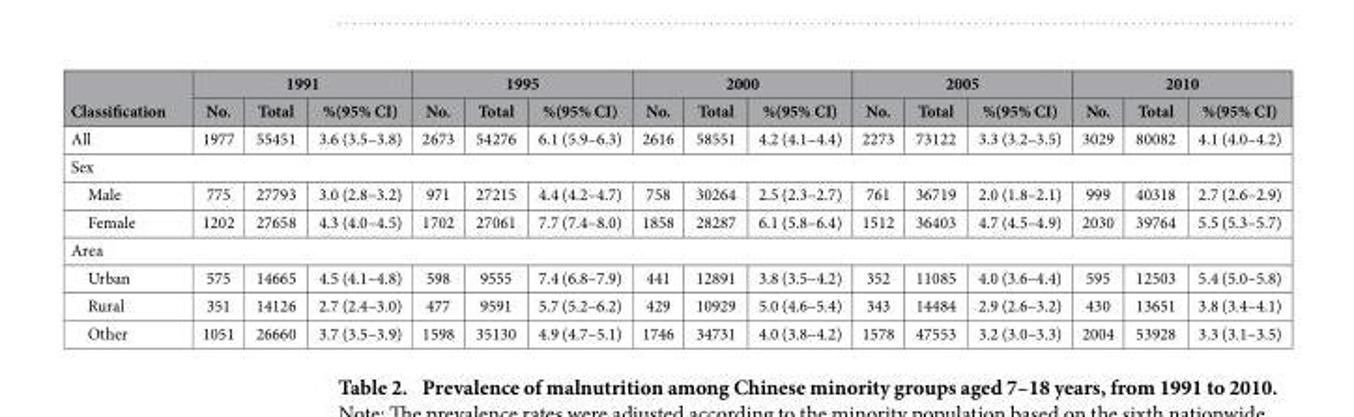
<table><thead><tr><td rowspan="2">Classification</td><td colspan="3">1991</td><td colspan="3">1995</td><td colspan="3">2000</td><td colspan="3">2005</td><td colspan="3">2010</td></tr><tr><td>No.</td><td>Total</td><td>%(95% CI)</td><td>No.</td><td>Total</td><td>%(95% CI)</td><td>No.</td><td>Total</td><td>%(95% CI)</td><td>No.</td><td>Total</td><td>%(95% CI)</td><td>No.</td><td>Total</td><td>%(95% CI)</td></tr></thead><tbody><tr><td>All</td><td>1977</td><td>55451</td><td>3.6 (3.5–3.8)</td><td>2673</td><td>54276</td><td>6.1 (5.9–6.3)</td><td>2616</td><td>58551</td><td>4.2 (4.1–4.4)</td><td>2273</td><td>73122</td><td>3.3 (3.2–3.5)</td><td>3029</td><td>80082</td><td>4.1 (4.0–4.2)</td></tr><tr><td colspan="16">Sex</td></tr><tr><td>Male</td><td>775</td><td>27793</td><td>3.0 (2.8–3.2)</td><td>971</td><td>27215</td><td>4.4 (4.2–4.7)</td><td>758</td><td>30264</td><td>2.5 (2.3–2.7)</td><td>761</td><td>36719</td><td>2.0 (1.8–2.1)</td><td>999</td><td>40318</td><td>2.7 (2.6–2.9)</td></tr><tr><td>Female</td><td>1202</td><td>27658</td><td>4.3 (4.0–4.5)</td><td>1702</td><td>27061</td><td>7.7 (7.4–8.0)</td><td>1858</td><td>28287</td><td>6.1 (5.8–6.4)</td><td>1512</td><td>36403</td><td>4.7 (4.5–4.9)</td><td>2030</td><td>39764</td><td>5.5 (5.3–5.7)</td></tr><tr><td colspan="16">Area</td></tr><tr><td>Urban</td><td>575</td><td>14665</td><td>4.5 (4.1–4.8)</td><td>598</td><td>9555</td><td>7.4 (6.8–7.9)</td><td>441</td><td>12891</td><td>3.8 (3.5–4.2)</td><td>352</td><td>11085</td><td>4.0 (3.6–4.4)</td><td>595</td><td>12503</td><td>5.4 (5.0–5.8)</td></tr><tr><td>Rural</td><td>351</td><td>14126</td><td>2.7 (2.4–3.0)</td><td>477</td><td>9591</td><td>5.7 (5.2–6.2)</td><td>429</td><td>10929</td><td>5.0 (4.6–5.4)</td><td>343</td><td>14484</td><td>2.9 (2.6–3.2)</td><td>430</td><td>13651</td><td>3.8 (3.4–4.1)</td></tr><tr><td>Other</td><td>1051</td><td>26660</td><td>3.7 (3.5–3.9)</td><td>1598</td><td>35130</td><td>4.9 (4.7–5.1)</td><td>1746</td><td>34731</td><td>4.0 (3.8–4.2)</td><td>1578</td><td>47553</td><td>3.2 (3.0–3.3)</td><td>2004</td><td>53928</td><td>3.3 (3.1–3.5)</td></tr></tbody></table>